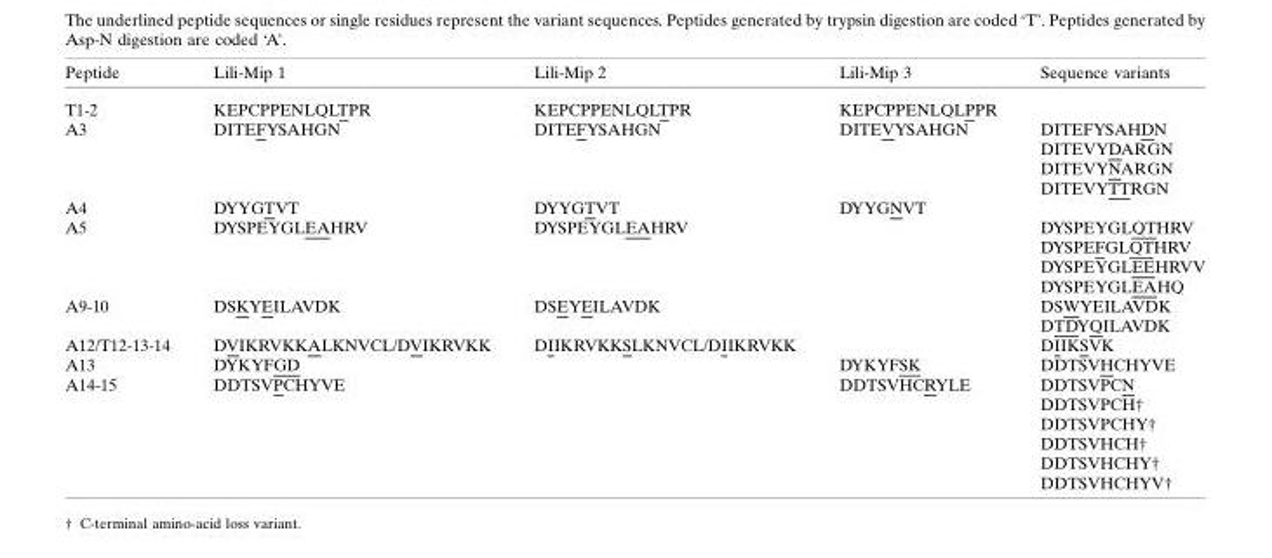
<table><thead><tr><td>Peptide</td><td>Lili-Mip 1</td><td>Lili-Mip 2</td><td>Lili-Mip 3</td><td>Sequence variants</td></tr></thead><tbody><tr><td>T1-2</td><td>KEPCPPENLQLTPR</td><td>KEPCPPENLQLTPR</td><td>KEPCPPENLQLPPR</td><td></td></tr><tr><td rowspan="4">A3</td><td rowspan="4">DITEFYSAHGN</td><td rowspan="4">DITEFYSAHGN</td><td rowspan="4">DITEVYSAHGN</td><td>DITEFYSAHDN</td></tr><tr><td>DITEVYDARGN</td></tr><tr><td>DITEVYNARGN</td></tr><tr><td>DITEVYTTRGN</td></tr><tr><td>A4</td><td>DYYGTVT</td><td>DYYGTVT</td><td>DYYGNVT</td><td></td></tr><tr><td rowspan="4">A5</td><td rowspan="4">DYSPEYGLEAHRV</td><td rowspan="4">DYSPEYGLEAHRV</td><td rowspan="4"></td><td>DYSPEYGLQTHRV</td></tr><tr><td>DYSPEFGLQTHRV</td></tr><tr><td>DYSPEYGLEEHRVV</td></tr><tr><td>DYSPEYGLEAHQ</td></tr><tr><td rowspan="2">A9-10</td><td rowspan="2">DSKYEILAVDK</td><td rowspan="2">DSEYEILAVDK</td><td rowspan="2"></td><td>DSWYEILAVDK</td></tr><tr><td>DTDYQILAVDK</td></tr><tr><td>A12/T12-13-14</td><td>DVIKRVKKALKNVCL/DVIKRVKK</td><td>DIIKRVKKSLKNVCL/DIIKRVKK</td><td></td><td>DIIKSVK</td></tr><tr><td>A13</td><td>DYKYFGD</td><td></td><td>DYKYFSK</td><td>DDTSVHCHYVE</td></tr><tr><td rowspan="6">A14-15</td><td rowspan="6">DDTSVPCHYVE</td><td rowspan="6"></td><td rowspan="6">DDTSVHCRYLE</td><td>DDTSVPCN</td></tr><tr><td>DDTSVPCH†</td></tr><tr><td>DDTSVPCHY†</td></tr><tr><td>DDTSVHCH†</td></tr><tr><td>DDTSVHCHY†</td></tr><tr><td>DDTSVHCHYV†</td></tr></tbody></table>